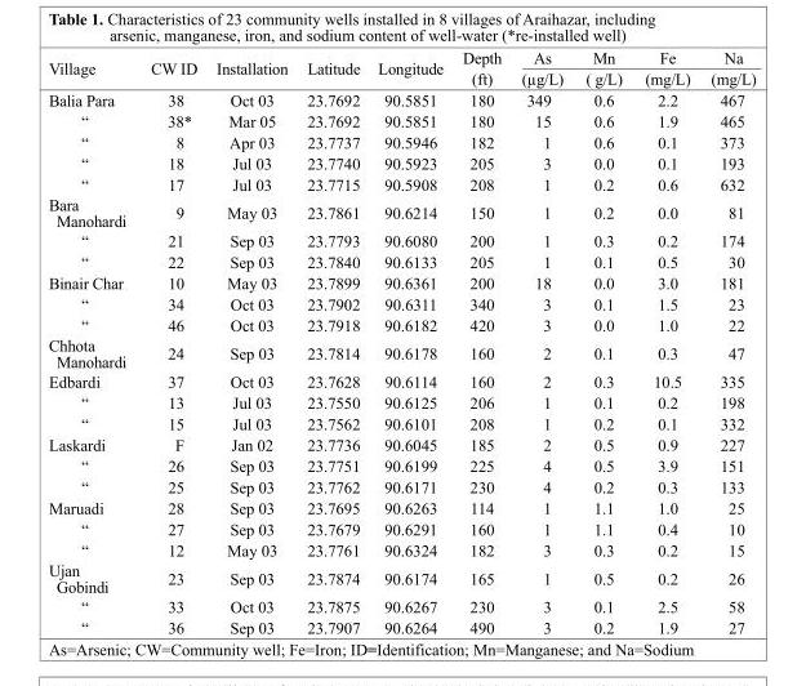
<table><thead><tr><td rowspan="2">Village</td><td rowspan="2">CW ID</td><td rowspan="2">Installation</td><td rowspan="2">Latitude</td><td rowspan="2">Longitude</td><td rowspan="2">Depth (ft)</td><td rowspan="2">As (µg/L)</td><td rowspan="2">Mn ( g/L)</td><td rowspan="2">Fe (mg/L)</td><td rowspan="2">Na (mg/L)</td></tr><tr></tr></thead><tbody><tr><td>Balia Para</td><td>38</td><td>Oct 03</td><td>23.7692</td><td>90.5851</td><td>180</td><td>349</td><td>0.6</td><td>2.2</td><td>467</td></tr><tr><td>“</td><td>38*</td><td>Mar 05</td><td>23.7692</td><td>90.5851</td><td>180</td><td>15</td><td>0.6</td><td>1.9</td><td>465</td></tr><tr><td>“</td><td>8</td><td>Apr 03</td><td>23.7737</td><td>90.5946</td><td>182</td><td>1</td><td>0.6</td><td>0.1</td><td>373</td></tr><tr><td>“</td><td>18</td><td>Jul 03</td><td>23.7740</td><td>90.5923</td><td>205</td><td>3</td><td>0.0</td><td>0.1</td><td>193</td></tr><tr><td>“</td><td>17</td><td>Jul 03</td><td>23.7715</td><td>90.5908</td><td>208</td><td>1</td><td>0.2</td><td>0.6</td><td>632</td></tr><tr><td>Bara Manohardi</td><td>9</td><td>May 03</td><td>23.7861</td><td>90.6214</td><td>150</td><td>1</td><td>0.2</td><td>0.0</td><td>81</td></tr><tr><td>“</td><td>21</td><td>Sep 03</td><td>23.7793</td><td>90.6080</td><td>200</td><td>1</td><td>0.3</td><td>0.2</td><td>174</td></tr><tr><td>“</td><td>22</td><td>Sep 03</td><td>23.7840</td><td>90.6133</td><td>205</td><td>1</td><td>0.1</td><td>0.5</td><td>30</td></tr><tr><td>Binair Char</td><td>10</td><td>May 03</td><td>23.7899</td><td>90.6361</td><td>200</td><td>18</td><td>0.0</td><td>3.0</td><td>181</td></tr><tr><td>“</td><td>34</td><td>Oct 03</td><td>23.7902</td><td>90.6311</td><td>340</td><td>3</td><td>0.1</td><td>1.5</td><td>23</td></tr><tr><td>“</td><td>46</td><td>Oct 03</td><td>23.7918</td><td>90.6182</td><td>420</td><td>3</td><td>0.0</td><td>1.0</td><td>22</td></tr><tr><td>Chhota Manohardi</td><td>24</td><td>Sep 03</td><td>23.7814</td><td>90.6178</td><td>160</td><td>2</td><td>0.1</td><td>0.3</td><td>47</td></tr><tr><td>Edbardi</td><td>37</td><td>Oct 03</td><td>23.7628</td><td>90.6114</td><td>160</td><td>2</td><td>0.3</td><td>10.5</td><td>335</td></tr><tr><td>“</td><td>13</td><td>Jul 03</td><td>23.7550</td><td>90.6125</td><td>206</td><td>1</td><td>0.1</td><td>0.2</td><td>198</td></tr><tr><td>“</td><td>15</td><td>Jul 03</td><td>23.7562</td><td>90.6101</td><td>208</td><td>1</td><td>0.2</td><td>0.1</td><td>332</td></tr><tr><td>Laskardi</td><td>F</td><td>Jan 02</td><td>23.7736</td><td>90.6045</td><td>185</td><td>2</td><td>0.5</td><td>0.9</td><td>227</td></tr><tr><td>“</td><td>26</td><td>Sep 03</td><td>23.7751</td><td>90.6199</td><td>225</td><td>4</td><td>0.5</td><td>3.9</td><td>151</td></tr><tr><td>“</td><td>25</td><td>Sep 03</td><td>23.7762</td><td>90.6171</td><td>230</td><td>4</td><td>0.2</td><td>0.3</td><td>133</td></tr><tr><td>Maruadi</td><td>28</td><td>Sep 03</td><td>23.7695</td><td>90.6263</td><td>114</td><td>1</td><td>1.1</td><td>1.0</td><td>25</td></tr><tr><td>“</td><td>27</td><td>Sep 03</td><td>23.7679</td><td>90.6291</td><td>160</td><td>1</td><td>1.1</td><td>0.4</td><td>10</td></tr><tr><td>“</td><td>12</td><td>May 03</td><td>23.7761</td><td>90.6324</td><td>182</td><td>3</td><td>0.3</td><td>0.2</td><td>15</td></tr><tr><td>Ujan Gobindi</td><td>23</td><td>Sep 03</td><td>23.7874</td><td>90.6174</td><td>165</td><td>1</td><td>0.5</td><td>0.2</td><td>26</td></tr><tr><td>“</td><td>33</td><td>Oct 03</td><td>23.7875</td><td>90.6267</td><td>230</td><td>3</td><td>0.1</td><td>2.5</td><td>58</td></tr><tr><td>“</td><td>36</td><td>Sep 03</td><td>23.7907</td><td>90.6264</td><td>490</td><td>3</td><td>0.2</td><td>1.9</td><td>27</td></tr></tbody></table>